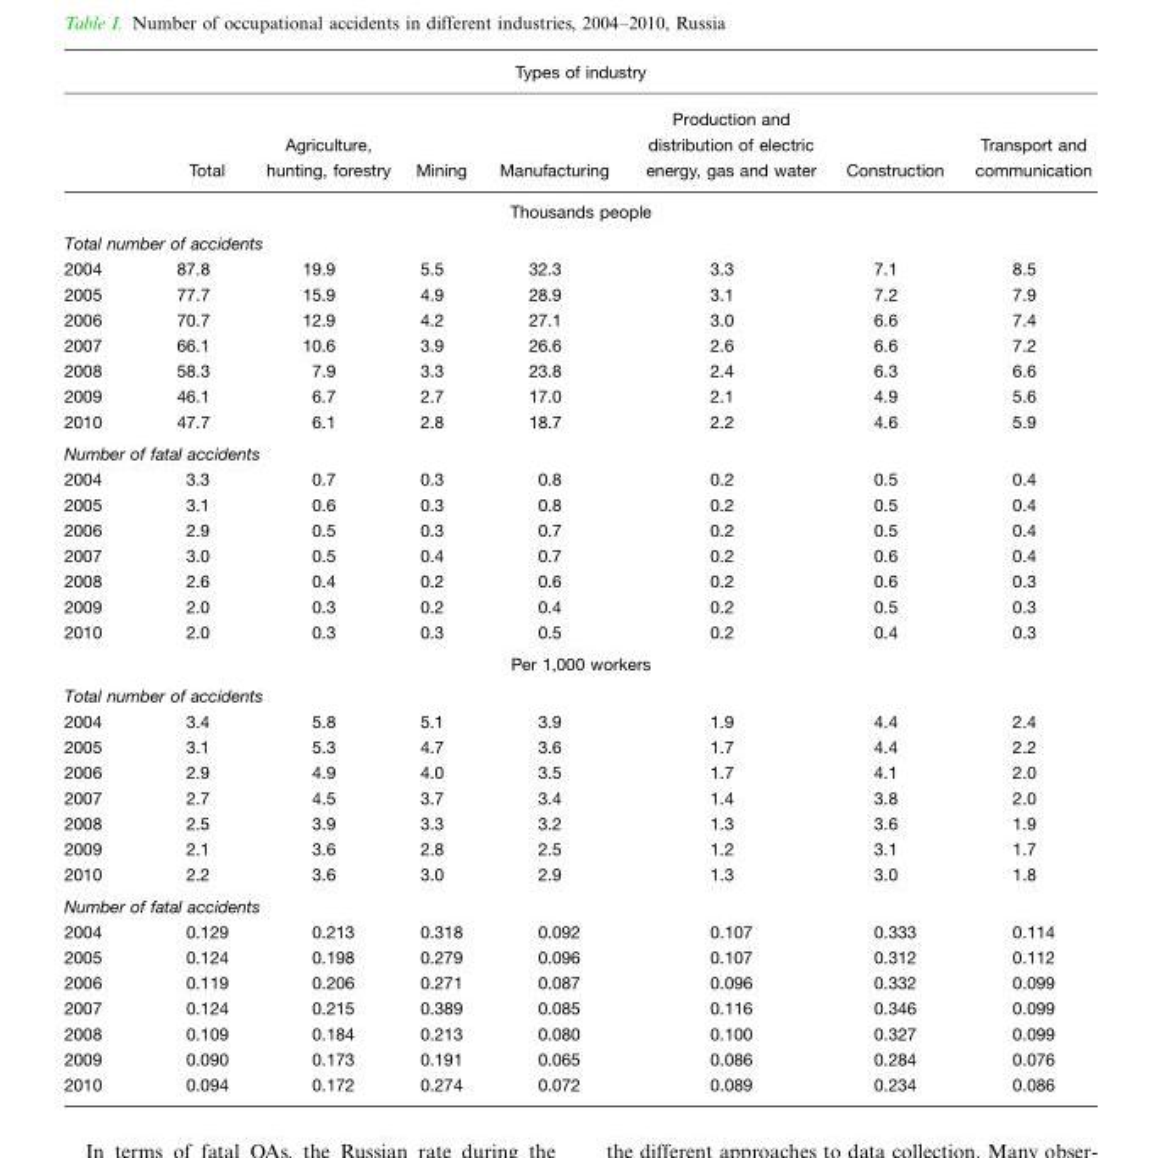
<table><thead><tr><td colspan="8">Types of industry</td></tr><tr><td></td><td>Total</td><td>Agriculture, hunting, forestry</td><td>Mining</td><td>Manufacturing</td><td>Production and distribution of electric energy, gas and water</td><td>Construction</td><td>Transport and communication</td></tr></thead><tbody><tr><td colspan="8">Thousands people</td></tr><tr><td colspan="8">Total number of accidents</td></tr><tr><td>2004</td><td>87.8</td><td>19.9</td><td>5.5</td><td>32.3</td><td>3.3</td><td>7.1</td><td>8.5</td></tr><tr><td>2005</td><td>77.7</td><td>15.9</td><td>4.9</td><td>28.9</td><td>3.1</td><td>7.2</td><td>7.9</td></tr><tr><td>2006</td><td>70.7</td><td>12.9</td><td>4.2</td><td>27.1</td><td>3.0</td><td>6.6</td><td>7.4</td></tr><tr><td>2007</td><td>66.1</td><td>10.6</td><td>3.9</td><td>26.6</td><td>2.6</td><td>6.6</td><td>7.2</td></tr><tr><td>2008</td><td>58.3</td><td>7.9</td><td>3.3</td><td>23.8</td><td>2.4</td><td>6.3</td><td>6.6</td></tr><tr><td>2009</td><td>46.1</td><td>6.7</td><td>2.7</td><td>17.0</td><td>2.1</td><td>4.9</td><td>5.6</td></tr><tr><td>2010</td><td>47.7</td><td>6.1</td><td>2.8</td><td>18.7</td><td>2.2</td><td>4.6</td><td>5.9</td></tr><tr><td colspan="8">Number of fatal accidents</td></tr><tr><td>2004</td><td>3.3</td><td>0.7</td><td>0.3</td><td>0.8</td><td>0.2</td><td>0.5</td><td>0.4</td></tr><tr><td>2005</td><td>3.1</td><td>0.6</td><td>0.3</td><td>0.8</td><td>0.2</td><td>0.5</td><td>0.4</td></tr><tr><td>2006</td><td>2.9</td><td>0.5</td><td>0.3</td><td>0.7</td><td>0.2</td><td>0.5</td><td>0.4</td></tr><tr><td>2007</td><td>3.0</td><td>0.5</td><td>0.4</td><td>0.7</td><td>0.2</td><td>0.6</td><td>0.4</td></tr><tr><td>2008</td><td>2.6</td><td>0.4</td><td>0.2</td><td>0.6</td><td>0.2</td><td>0.6</td><td>0.3</td></tr><tr><td>2009</td><td>2.0</td><td>0.3</td><td>0.2</td><td>0.4</td><td>0.2</td><td>0.5</td><td>0.3</td></tr><tr><td>2010</td><td>2.0</td><td>0.3</td><td>0.3</td><td>0.5</td><td>0.2</td><td>0.4</td><td>0.3</td></tr><tr><td colspan="8">Per 1,000 workers</td></tr><tr><td colspan="8">Total number of accidents</td></tr><tr><td>2004</td><td>3.4</td><td>5.8</td><td>5.1</td><td>3.9</td><td>1.9</td><td>4.4</td><td>2.4</td></tr><tr><td>2005</td><td>3.1</td><td>5.3</td><td>4.7</td><td>3.6</td><td>1.7</td><td>4.4</td><td>2.2</td></tr><tr><td>2006</td><td>2.9</td><td>4.9</td><td>4.0</td><td>3.5</td><td>1.7</td><td>4.1</td><td>2.0</td></tr><tr><td>2007</td><td>2.7</td><td>4.5</td><td>3.7</td><td>3.4</td><td>1.4</td><td>3.8</td><td>2.0</td></tr><tr><td>2008</td><td>2.5</td><td>3.9</td><td>3.3</td><td>3.2</td><td>1.3</td><td>3.6</td><td>1.9</td></tr><tr><td>2009</td><td>2.1</td><td>3.6</td><td>2.8</td><td>2.5</td><td>1.2</td><td>3.1</td><td>1.7</td></tr><tr><td>2010</td><td>2.2</td><td>3.6</td><td>3.0</td><td>2.9</td><td>1.3</td><td>3.0</td><td>1.8</td></tr><tr><td colspan="8">Number of fatal accidents</td></tr><tr><td>2004</td><td>0.129</td><td>0.213</td><td>0.318</td><td>0.092</td><td>0.107</td><td>0.333</td><td>0.114</td></tr><tr><td>2005</td><td>0.124</td><td>0.198</td><td>0.279</td><td>0.096</td><td>0.107</td><td>0.312</td><td>0.112</td></tr><tr><td>2006</td><td>0.119</td><td>0.206</td><td>0.271</td><td>0.087</td><td>0.096</td><td>0.332</td><td>0.099</td></tr><tr><td>2007</td><td>0.124</td><td>0.215</td><td>0.389</td><td>0.085</td><td>0.116</td><td>0.346</td><td>0.099</td></tr><tr><td>2008</td><td>0.109</td><td>0.184</td><td>0.213</td><td>0.080</td><td>0.100</td><td>0.327</td><td>0.099</td></tr><tr><td>2009</td><td>0.090</td><td>0.173</td><td>0.191</td><td>0.065</td><td>0.086</td><td>0.284</td><td>0.076</td></tr><tr><td>2010</td><td>0.094</td><td>0.172</td><td>0.274</td><td>0.072</td><td>0.089</td><td>0.234</td><td>0.086</td></tr></tbody></table>